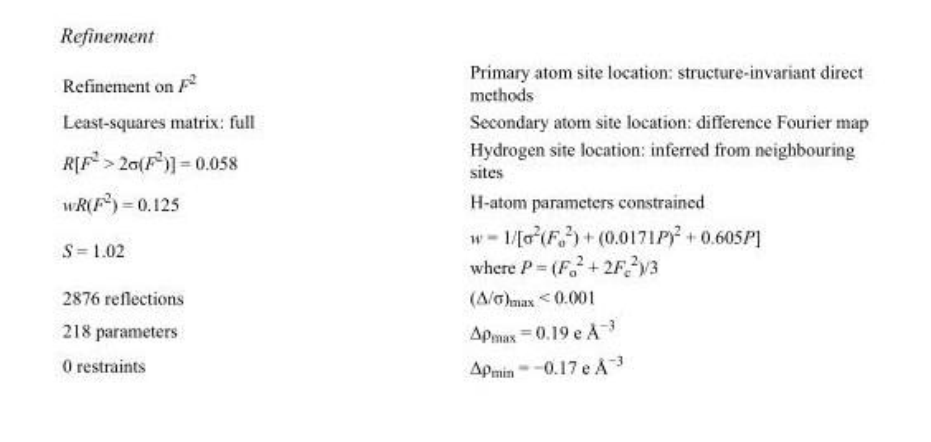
<table><tbody><tr><td>Refinement on F<sup>2</sup></td><td>Primary atom site location: structure-invariant direct methods</td></tr><tr><td>Least-squares matrix: full</td><td>Secondary atom site location: difference Fourier map</td></tr><tr><td>R[F<sup>2</sup> &gt; 2σ(F<sup>2</sup>)] = 0.058</td><td>Hydrogen site location: inferred from neighbouring sites</td></tr><tr><td>wR(F<sup>2</sup>) = 0.125</td><td>H-atom parameters constrained</td></tr><tr><td>S = 1.02</td><td>w = 1/[σ<sup>2</sup>(F<sub>o</sub> <sup>2</sup>) + (0.0171P)<sup>2</sup> + 0.605P] where P = (F<sub>o</sub> <sup>2</sup> + 2F<sub>c</sub> <sup>2</sup>)/3</td></tr><tr><td>2876 reflections</td><td>(Δ/σ)<sub>max</sub> &lt; 0.001</td></tr><tr><td>218 parameters</td><td>Δρ<sub>max</sub> = 0.19 e Å<sup>−3</sup></td></tr><tr><td>0 restraints</td><td>Δρ<sub>min</sub> = −0.17 e Å<sup>−3</sup></td></tr></tbody></table>